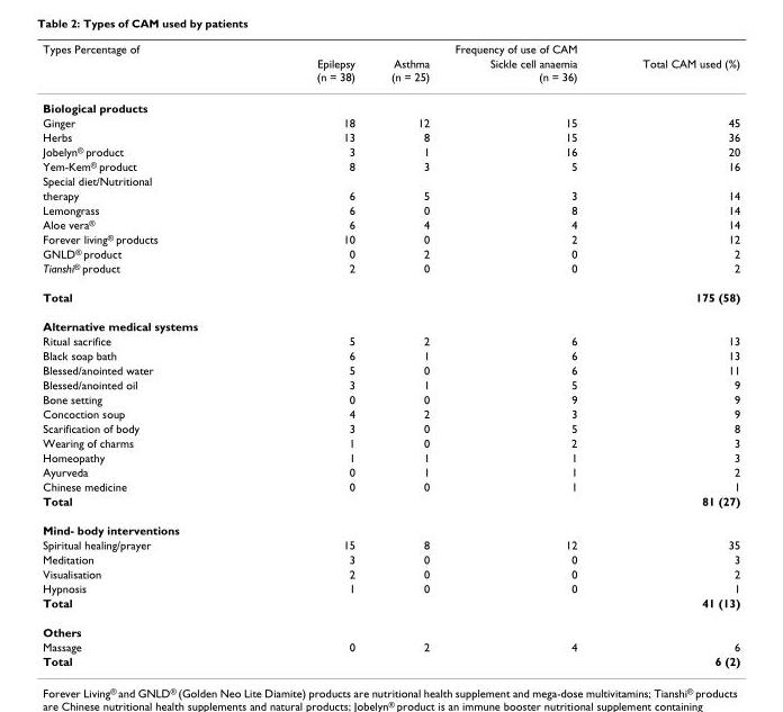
<table><thead><tr><td rowspan="2">Types Percentage of</td><td colspan="4">Frequency of use of CAM</td></tr><tr><td>Epilepsy (n = 38)</td><td>Asthma (n = 25)</td><td>Sickle cell anaemia (n = 36)</td><td>Total CAM used (%)</td></tr></thead><tbody><tr><td colspan="5">Biological products</td></tr><tr><td>Ginger</td><td>18</td><td>12</td><td>15</td><td>45</td></tr><tr><td>Herbs</td><td>13</td><td>8</td><td>15</td><td>36</td></tr><tr><td>Jobelyn<sup>®</sup> product</td><td>3</td><td>1</td><td>16</td><td>20</td></tr><tr><td>Yem-Kem<sup>®</sup> product</td><td>8</td><td>3</td><td>5</td><td>16</td></tr><tr><td colspan="5">Special diet/Nutritional</td></tr><tr><td>therapy</td><td>6</td><td>5</td><td>3</td><td>14</td></tr><tr><td>Lemongrass</td><td>6</td><td>0</td><td>8</td><td>14</td></tr><tr><td>Aloe vera<sup>®</sup></td><td>6</td><td>4</td><td>4</td><td>14</td></tr><tr><td>Forever living<sup>®</sup> products</td><td>10</td><td>0</td><td>2</td><td>12</td></tr><tr><td>GNLD<sup>®</sup> product</td><td>0</td><td>2</td><td>0</td><td>2</td></tr><tr><td>Tianshi<sup>®</sup> product</td><td>2</td><td>0</td><td>0</td><td>2</td></tr><tr><td>Total</td><td></td><td></td><td></td><td>175 (58)</td></tr><tr><td colspan="5">Alternative medical systems</td></tr><tr><td>Ritual sacrifice</td><td>5</td><td>2</td><td>6</td><td>13</td></tr><tr><td>Black soap bath</td><td>6</td><td>1</td><td>6</td><td>13</td></tr><tr><td>Blessed/anointed water</td><td>5</td><td>0</td><td>6</td><td>11</td></tr><tr><td>Blessed/anointed oil</td><td>3</td><td>1</td><td>5</td><td>9</td></tr><tr><td>Bone setting</td><td>0</td><td>0</td><td>9</td><td>9</td></tr><tr><td>Concoction soup</td><td>4</td><td>2</td><td>3</td><td>9</td></tr><tr><td>Scarification of body</td><td>3</td><td>0</td><td>5</td><td>8</td></tr><tr><td>Wearing of charms</td><td>1</td><td>0</td><td>2</td><td>3</td></tr><tr><td>Homeopathy</td><td>1</td><td>1</td><td>1</td><td>3</td></tr><tr><td>Ayurveda</td><td>0</td><td>1</td><td>1</td><td>2</td></tr><tr><td>Chinese medicine</td><td>0</td><td>0</td><td>1</td><td>1</td></tr><tr><td>Total</td><td></td><td></td><td></td><td>81 (27)</td></tr><tr><td colspan="5">Mind- body interventions</td></tr><tr><td>Spiritual healing/prayer</td><td>15</td><td>8</td><td>12</td><td>35</td></tr><tr><td>Meditation</td><td>3</td><td>0</td><td>0</td><td>3</td></tr><tr><td>Visualisation</td><td>2</td><td>0</td><td>0</td><td>2</td></tr><tr><td>Hypnosis</td><td>1</td><td>0</td><td>0</td><td>1</td></tr><tr><td>Total</td><td></td><td></td><td></td><td>41 (13)</td></tr><tr><td colspan="5">Others</td></tr><tr><td>Massage</td><td>0</td><td>2</td><td>4</td><td>6</td></tr><tr><td>Total</td><td></td><td></td><td></td><td>6 (2)</td></tr></tbody></table>